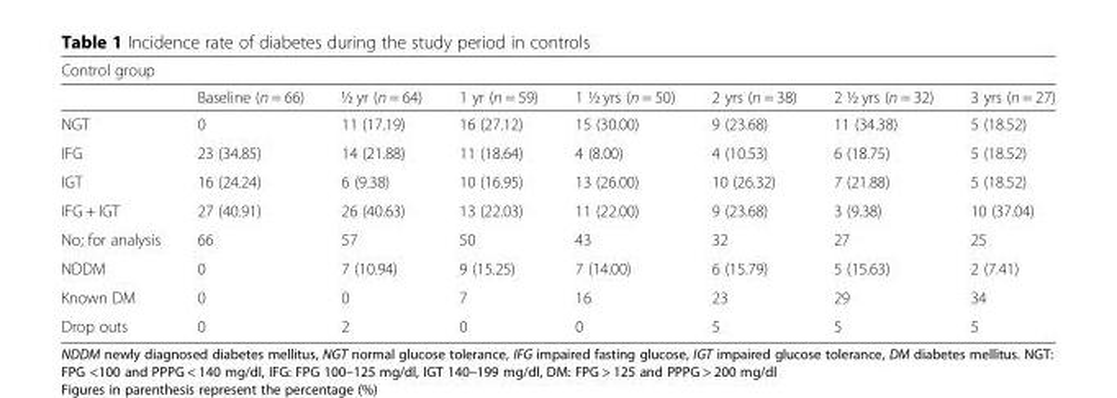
<table><thead><tr><td colspan="8">Control group</td></tr><tr><td></td><td>Baseline (n = 66)</td><td>½ yr (n = 64)</td><td>1 yr (n = 59)</td><td>1 ½ yrs (n = 50)</td><td>2 yrs (n = 38)</td><td>2 ½ yrs (n = 32)</td><td>3 yrs (n = 27)</td></tr></thead><tbody><tr><td>NGT</td><td>0</td><td>11 (17.19)</td><td>16 (27.12)</td><td>15 (30.00)</td><td>9 (23.68)</td><td>11 (34.38)</td><td>5 (18.52)</td></tr><tr><td>IFG</td><td>23 (34.85)</td><td>14 (21.88)</td><td>11 (18.64)</td><td>4 (8.00)</td><td>4 (10.53)</td><td>6 (18.75)</td><td>5 (18.52)</td></tr><tr><td>IGT</td><td>16 (24.24)</td><td>6 (9.38)</td><td>10 (16.95)</td><td>13 (26.00)</td><td>10 (26.32)</td><td>7 (21.88)</td><td>5 (18.52)</td></tr><tr><td>IFG + IGT</td><td>27 (40.91)</td><td>26 (40.63)</td><td>13 (22.03)</td><td>11 (22.00)</td><td>9 (23.68)</td><td>3 (9.38)</td><td>10 (37.04)</td></tr><tr><td>No; for analysis</td><td>66</td><td>57</td><td>50</td><td>43</td><td>32</td><td>27</td><td>25</td></tr><tr><td>NDDM</td><td>0</td><td>7 (10.94)</td><td>9 (15.25)</td><td>7 (14.00)</td><td>6 (15.79)</td><td>5 (15.63)</td><td>2 (7.41)</td></tr><tr><td>Known DM</td><td>0</td><td>0</td><td>7</td><td>16</td><td>23</td><td>29</td><td>34</td></tr><tr><td>Drop outs</td><td>0</td><td>2</td><td>0</td><td>0</td><td>5</td><td>5</td><td>5</td></tr></tbody></table>